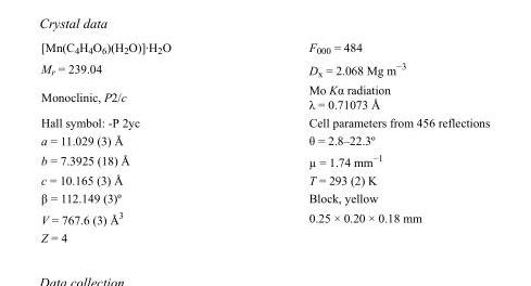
<table><tbody><tr><td>[Mn(C<sub>4</sub>H<sub>4</sub>O<sub>6</sub>)(H<sub>2</sub>O)]·H<sub>2</sub>O</td><td>F<sub>000</sub> = 484</td></tr><tr><td>M<sub>r</sub> = 239.04</td><td>D<sub>x</sub> = 2.068 Mg m<sup>−3</sup></td></tr><tr><td>Monoclinic, P2/c</td><td>Mo Kα radiation λ = 0.71073 Å</td></tr><tr><td>Hall symbol: -P 2yc</td><td>Cell parameters from 456 reflections</td></tr><tr><td>a = 11.029 (3) Å</td><td>θ = 2.8–22.3º</td></tr><tr><td>b = 7.3925 (18) Å</td><td>µ = 1.74 mm<sup>−1</sup></td></tr><tr><td>c = 10.165 (3) Å</td><td>T = 293 (2) K</td></tr><tr><td>β = 112.149 (3)º</td><td>Block, yellow</td></tr><tr><td>V = 767.6 (3) Å<sup>3</sup></td><td>0.25 × 0.20 × 0.18 mm</td></tr><tr><td>Z = 4</td><td></td></tr></tbody></table>